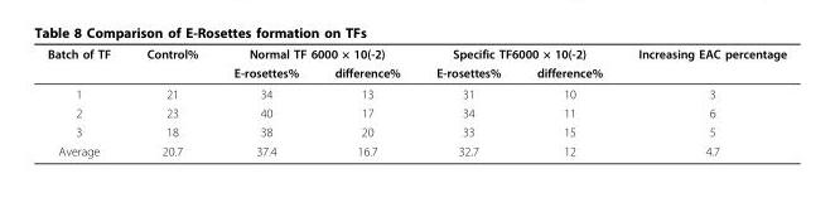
<table><thead><tr><td rowspan="2">Batch of TF</td><td rowspan="2">Control%</td><td colspan="2">Normal TF 6000 × 10(-2)</td><td colspan="2">Specific TF6000 × 10(-2)</td><td rowspan="2">Increasing EAC percentage</td></tr><tr><td>E-rosettes%</td><td>difference%</td><td>E-rosettes%</td><td>difference%</td></tr></thead><tbody><tr><td>1</td><td>21</td><td>34</td><td>13</td><td>31</td><td>10</td><td>3</td></tr><tr><td>2</td><td>23</td><td>40</td><td>17</td><td>34</td><td>11</td><td>6</td></tr><tr><td>3</td><td>18</td><td>38</td><td>20</td><td>33</td><td>15</td><td>5</td></tr><tr><td>Average</td><td>20.7</td><td>37.4</td><td>16.7</td><td>32.7</td><td>12</td><td>4.7</td></tr></tbody></table>